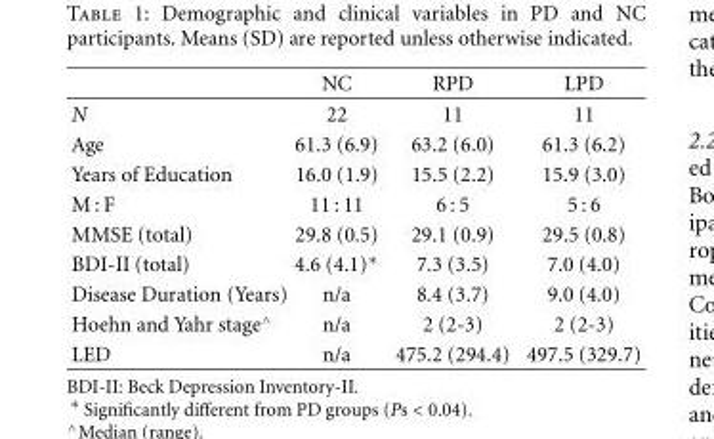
<table><thead><tr><td></td><td>NC</td><td>RPD</td><td>LPD</td></tr></thead><tbody><tr><td>N</td><td>22</td><td>11</td><td>11</td></tr><tr><td>Age</td><td>61.3 (6.9)</td><td>63.2 (6.0)</td><td>61.3 (6.2)</td></tr><tr><td>Years of Education</td><td>16.0 (1.9)</td><td>15.5 (2.2)</td><td>15.9 (3.0)</td></tr><tr><td>M : F</td><td>11 : 11</td><td>6 : 5</td><td>5 : 6</td></tr><tr><td>MMSE (total)</td><td>29.8 (0.5)</td><td>29.1 (0.9)</td><td>29.5 (0.8)</td></tr><tr><td>BDI-II (total)</td><td>4.6 (4.1)∗</td><td>7.3 (3.5)</td><td>7.0 (4.0)</td></tr><tr><td>Disease Duration (Years)</td><td>n/a</td><td>8.4 (3.7)</td><td>9.0 (4.0)</td></tr><tr><td>Hoehn and Yahr stage<sup>∧</sup></td><td>n/a</td><td>2 (2-3)</td><td>2 (2-3)</td></tr><tr><td>LED</td><td>n/a</td><td>475.2 (294.4)</td><td>497.5 (329.7)</td></tr></tbody></table>